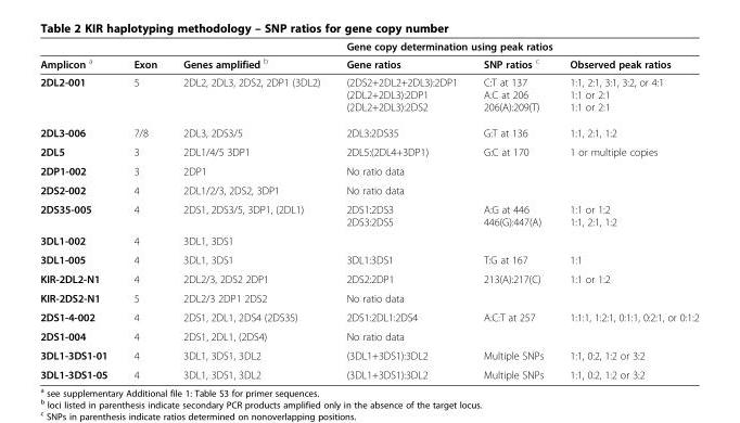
<table><thead><tr><td rowspan="2">Amplicon <sup>a</sup></td><td rowspan="2">Exon</td><td rowspan="2">Genes amplified <sup>b</sup></td><td colspan="3">Gene copy determination using peak ratios</td></tr><tr><td>Gene ratios</td><td>SNP ratios <sup>c</sup></td><td>Observed peak ratios</td></tr></thead><tbody><tr><td rowspan="3">2DL2-001</td><td rowspan="3">5</td><td rowspan="3">2DL2, 2DL3, 2DS2, 2DP1 (3DL2)</td><td>(2DS2+2DL2+2DL3):2DP1</td><td>C:T at 137</td><td>1:1, 2:1, 3:1, 3:2, or 4:1</td></tr><tr><td>(2DL2+2DL3):2DP1</td><td>A:C at 206</td><td>1:1 or 2:1</td></tr><tr><td>(2DL2+2DL3):2DS2</td><td>206(A):209(T)</td><td>1:1 or 2:1</td></tr><tr><td>2DL3-006</td><td>7/8</td><td>2DL3, 2DS3/5</td><td>2DL3:2DS35</td><td>G:T at 136</td><td>1:1, 2:1, 1:2</td></tr><tr><td>2DL5</td><td>3</td><td>2DL1/4/5 3DP1</td><td>2DL5:(2DL4+3DP1)</td><td>G:C at 170</td><td>1 or multiple copies</td></tr><tr><td>2DP1-002</td><td>3</td><td>2DP1</td><td>No ratio data</td><td></td><td></td></tr><tr><td>2DS2-002</td><td>4</td><td>2DL1/2/3, 2DS2, 3DP1</td><td>No ratio data</td><td></td><td></td></tr><tr><td rowspan="2">2DS35-005</td><td rowspan="2">4</td><td rowspan="2">2DS1, 2DS3/5, 3DP1, (2DL1)</td><td>2DS1:2DS3</td><td>A:G at 446</td><td>1:1 or 1:2</td></tr><tr><td>2DS3:2DS5</td><td>446(G):447(A)</td><td>1:1, 2:1, 1:2</td></tr><tr><td>3DL1-002</td><td>4</td><td>3DL1, 3DS1</td><td></td><td></td><td></td></tr><tr><td>3DL1-005</td><td>4</td><td>3DL1, 3DS1</td><td>3DL1:3DS1</td><td>T:G at 167</td><td>1:1</td></tr><tr><td>KIR-2DL2-N1</td><td>4</td><td>2DL2/3, 2DS2 2DP1</td><td>2DS2:2DP1</td><td>213(A):217(C)</td><td>1:1 or 1:2</td></tr><tr><td>KIR-2DS2-N1</td><td>5</td><td>2DL2/3 2DP1 2DS2</td><td>No ratio data</td><td></td><td></td></tr><tr><td>2DS1-4-002</td><td>4</td><td>2DS1, 2DL1, 2DS4 (2DS35)</td><td>2DS1:2DL1:2DS4</td><td>A:C:T at 257</td><td>1:1:1, 1:2:1, 0:1:1, 0:2:1, or 0:1:2</td></tr><tr><td>2DS1-004</td><td>4</td><td>2DS1, 2DL1, (2DS4)</td><td>No ratio data</td><td></td><td></td></tr><tr><td>3DL1-3DS1-01</td><td>4</td><td>3DL1, 3DS1, 3DL2</td><td>(3DL1+3DS1):3DL2</td><td>Multiple SNPs</td><td>1:1, 0:2, 1:2 or 3:2</td></tr><tr><td>3DL1-3DS1-05</td><td>4</td><td>3DL1, 3DS1, 3DL2</td><td>(3DL1+3DS1):3DL2</td><td>Multiple SNPs</td><td>1:1, 0:2, 1:2 or 3:2</td></tr></tbody></table>